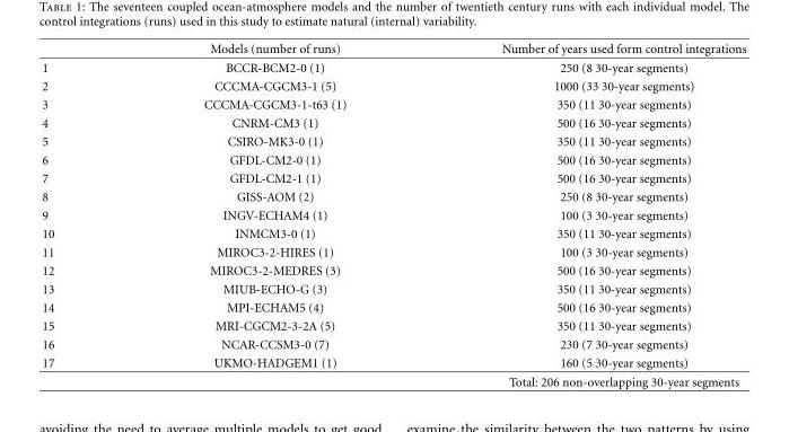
<table><thead><tr><td></td><td>Models (number of runs)</td><td>Number of years used form control integrations</td></tr></thead><tbody><tr><td>1</td><td>BCCR-BCM2-0 (1)</td><td>250 (8 30-year segments)</td></tr><tr><td>2</td><td>CCCMA-CGCM3-1 (5)</td><td>1000 (33 30-year segments)</td></tr><tr><td>3</td><td>CCCMA-CGCM3-1-t63 (1)</td><td>350 (11 30-year segments)</td></tr><tr><td>4</td><td>CNRM-CM3 (1)</td><td>500 (16 30-year segments)</td></tr><tr><td>5</td><td>CSIRO-MK3-0 (1)</td><td>350 (11 30-year segments)</td></tr><tr><td>6</td><td>GFDL-CM2-0 (1)</td><td>500 (16 30-year segments)</td></tr><tr><td>7</td><td>GFDL-CM2-1 (1)</td><td>500 (16 30-year segments)</td></tr><tr><td>8</td><td>GISS-AOM (2)</td><td>250 (8 30-year segments)</td></tr><tr><td>9</td><td>INGV-ECHAM4 (1)</td><td>100 (3 30-year segments)</td></tr><tr><td>10</td><td>INMCM3-0 (1)</td><td>350 (11 30-year segments)</td></tr><tr><td>11</td><td>MIROC3-2-HIRES (1)</td><td>100 (3 30-year segments)</td></tr><tr><td>12</td><td>MIROC3-2-MEDRES (3)</td><td>500 (16 30-year segments)</td></tr><tr><td>13</td><td>MIUB-ECHO-G (3)</td><td>350 (11 30-year segments)</td></tr><tr><td>14</td><td>MPI-ECHAM5 (4)</td><td>500 (16 30-year segments)</td></tr><tr><td>15</td><td>MRI-CGCM2-3-2A (5)</td><td>350 (11 30-year segments)</td></tr><tr><td>16</td><td>NCAR-CCSM3-0 (7)</td><td>230 (7 30-year segments)</td></tr><tr><td rowspan="2">17</td><td>UKMO-HADGEM1 (1)</td><td>160 (5 30-year segments)</td></tr><tr><td></td><td>Total: 206 non-overlapping 30-year segments</td></tr></tbody></table>